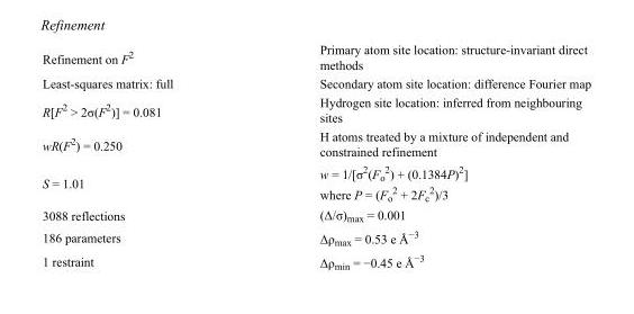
<table><tbody><tr><td>Refinement on F<sup>2</sup></td><td>Primary atom site location: structure-invariant direct methods</td></tr><tr><td>Least-squares matrix: full</td><td>Secondary atom site location: difference Fourier map</td></tr><tr><td>R[F<sup>2</sup> &gt; 2σ(F<sup>2</sup>)] = 0.081</td><td>Hydrogen site location: inferred from neighbouring sites</td></tr><tr><td>wR(F<sup>2</sup>) = 0.250</td><td>H atoms treated by a mixture of independent and constrained refinement</td></tr><tr><td>S = 1.01</td><td>w = 1/[σ<sup>2</sup>(F<sub>o</sub> <sup>2</sup>) + (0.1384P)<sup>2</sup>] where P = (F<sub>o</sub> <sup>2</sup> + 2F<sub>c</sub> <sup>2</sup>)/3</td></tr><tr><td>3088 reflections</td><td>(Δ/σ)<sub>max</sub> = 0.001</td></tr><tr><td>186 parameters</td><td>Δρ<sub>max</sub> = 0.53 e Å<sup>−3</sup></td></tr><tr><td>1 restraint</td><td>Δρ<sub>min</sub> = −0.45 e Å<sup>−3</sup></td></tr></tbody></table>